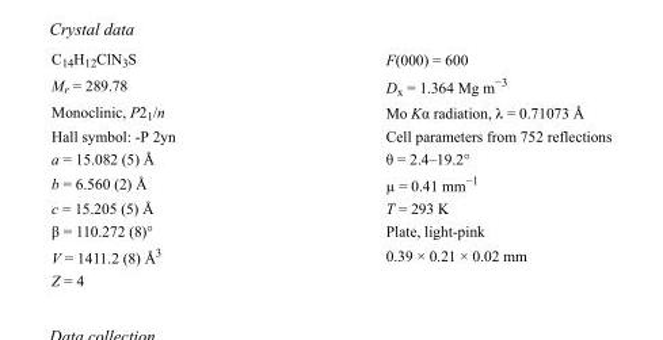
<table><tbody><tr><td>C<sub>14</sub>H<sub>12</sub>ClN<sub>3</sub>S</td><td>F(000) = 600</td></tr><tr><td>M<sub>r</sub> = 289.78</td><td>D<sub>x</sub> = 1.364 Mg m<sup>−3</sup></td></tr><tr><td>Monoclinic, P2<sub>1</sub>/n</td><td>Mo Kα radiation, λ = 0.71073 Å</td></tr><tr><td>Hall symbol: -P 2yn</td><td>Cell parameters from 752 reflections</td></tr><tr><td>a = 15.082 (5) Å</td><td>θ = 2.4–19.2°</td></tr><tr><td>b = 6.560 (2) Å</td><td>µ = 0.41 mm<sup>−1</sup></td></tr><tr><td>c = 15.205 (5) Å</td><td>T = 293 K</td></tr><tr><td>β = 110.272 (8)°</td><td>Plate, light-pink</td></tr><tr><td>V = 1411.2 (8) Å<sup>3</sup></td><td>0.39 × 0.21 × 0.02 mm</td></tr><tr><td>Z = 4</td><td></td></tr></tbody></table>